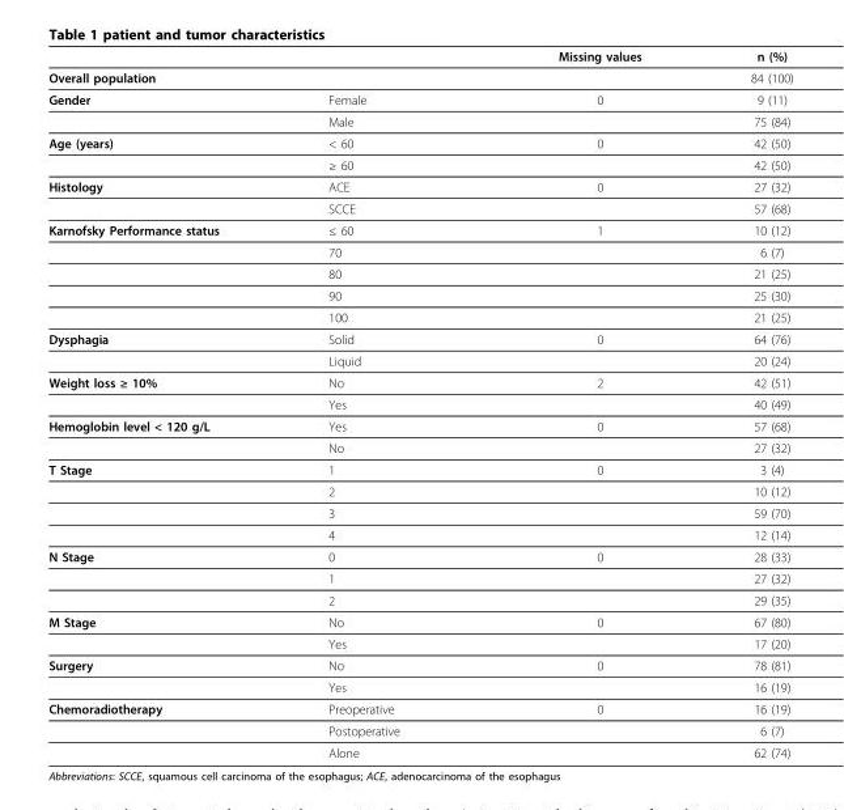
<table><thead><tr><td></td><td></td><td>Missing values</td><td>n (%)</td></tr></thead><tbody><tr><td>Overall population</td><td></td><td></td><td>84 (100)</td></tr><tr><td rowspan="2">Gender</td><td>Female</td><td>0</td><td>9 (11)</td></tr><tr><td>Male</td><td></td><td>75 (84)</td></tr><tr><td rowspan="2">Age (years)</td><td>&lt; 60</td><td>0</td><td>42 (50)</td></tr><tr><td>≥ 60</td><td></td><td>42 (50)</td></tr><tr><td rowspan="2">Histology</td><td>ACE</td><td>0</td><td>27 (32)</td></tr><tr><td>SCCE</td><td></td><td>57 (68)</td></tr><tr><td rowspan="5">Karnofsky Performance status</td><td>≤ 60</td><td>1</td><td>10 (12)</td></tr><tr><td>70</td><td></td><td>6 (7)</td></tr><tr><td>80</td><td></td><td>21 (25)</td></tr><tr><td>90</td><td></td><td>25 (30)</td></tr><tr><td>100</td><td></td><td>21 (25)</td></tr><tr><td rowspan="2">Dysphagia</td><td>Solid</td><td>0</td><td>64 (76)</td></tr><tr><td>Liquid</td><td></td><td>20 (24)</td></tr><tr><td rowspan="2">Weight loss ≥ 10%</td><td>No</td><td>2</td><td>42 (51)</td></tr><tr><td>Yes</td><td></td><td>40 (49)</td></tr><tr><td rowspan="2">Hemoglobin level &lt; 120 g/L</td><td>Yes</td><td>0</td><td>57 (68)</td></tr><tr><td>No</td><td></td><td>27 (32)</td></tr><tr><td rowspan="4">T Stage</td><td>1</td><td>0</td><td>3 (4)</td></tr><tr><td>2</td><td></td><td>10 (12)</td></tr><tr><td>3</td><td></td><td>59 (70)</td></tr><tr><td>4</td><td></td><td>12 (14)</td></tr><tr><td rowspan="3">N Stage</td><td>0</td><td>0</td><td>28 (33)</td></tr><tr><td>1</td><td></td><td>27 (32)</td></tr><tr><td>2</td><td></td><td>29 (35)</td></tr><tr><td rowspan="2">M Stage</td><td>No</td><td>0</td><td>67 (80)</td></tr><tr><td>Yes</td><td></td><td>17 (20)</td></tr><tr><td rowspan="2">Surgery</td><td>No</td><td>0</td><td>78 (81)</td></tr><tr><td>Yes</td><td></td><td>16 (19)</td></tr><tr><td rowspan="3">Chemoradiotherapy</td><td>Preoperative</td><td>0</td><td>16 (19)</td></tr><tr><td>Postoperative</td><td></td><td>6 (7)</td></tr><tr><td>Alone</td><td></td><td>62 (74)</td></tr></tbody></table>